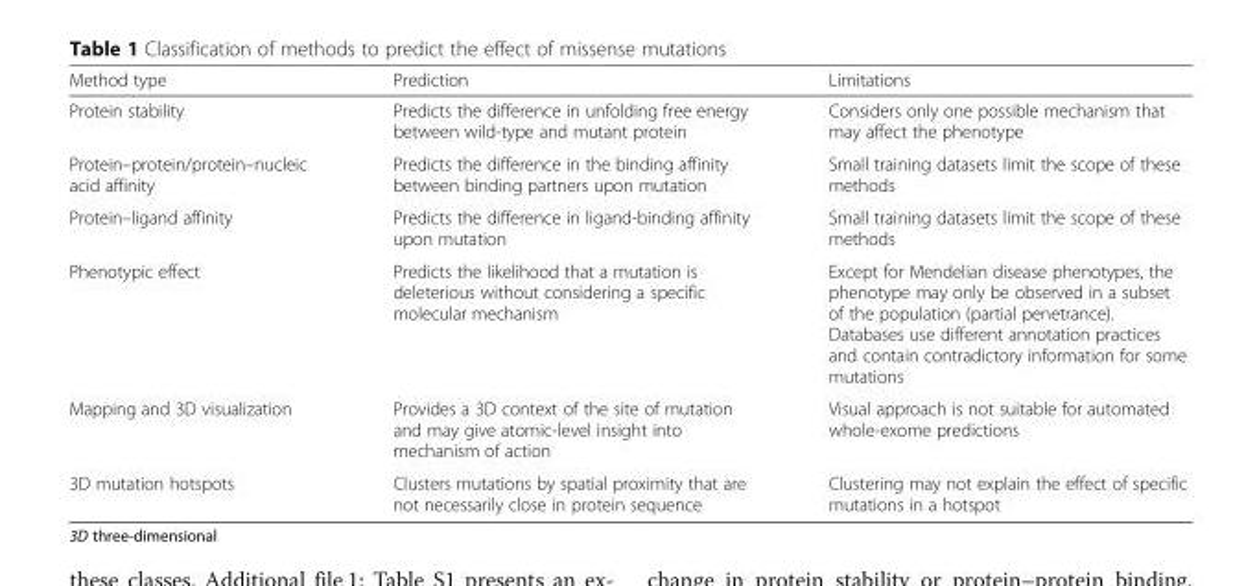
<table><thead><tr><td>Method type</td><td>Prediction</td><td>Limitations</td></tr></thead><tbody><tr><td>Protein stability</td><td>Predicts the difference in unfolding free energy between wild-type and mutant protein</td><td>Considers only one possible mechanism that may affect the phenotype</td></tr><tr><td>Protein–protein/protein–nucleic acid affinity</td><td>Predicts the difference in the binding affinity between binding partners upon mutation</td><td>Small training datasets limit the scope of these methods</td></tr><tr><td>Protein–ligand affinity</td><td>Predicts the difference in ligand-binding affinity upon mutation</td><td>Small training datasets limit the scope of these methods</td></tr><tr><td>Phenotypic effect</td><td>Predicts the likelihood that a mutation is deleterious without considering a specific molecular mechanism</td><td>Except for Mendelian disease phenotypes, the phenotype may only be observed in a subset of the population (partial penetrance). Databases use different annotation practices and contain contradictory information for some mutations</td></tr><tr><td>Mapping and 3D visualization</td><td>Provides a 3D context of the site of mutation and may give atomic-level insight into mechanism of action</td><td>Visual approach is not suitable for automated whole-exome predictions</td></tr><tr><td>3D mutation hotspots</td><td>Clusters mutations by spatial proximity that are not necessarily close in protein sequence</td><td>Clustering may not explain the effect of specific mutations in a hotspot</td></tr></tbody></table>